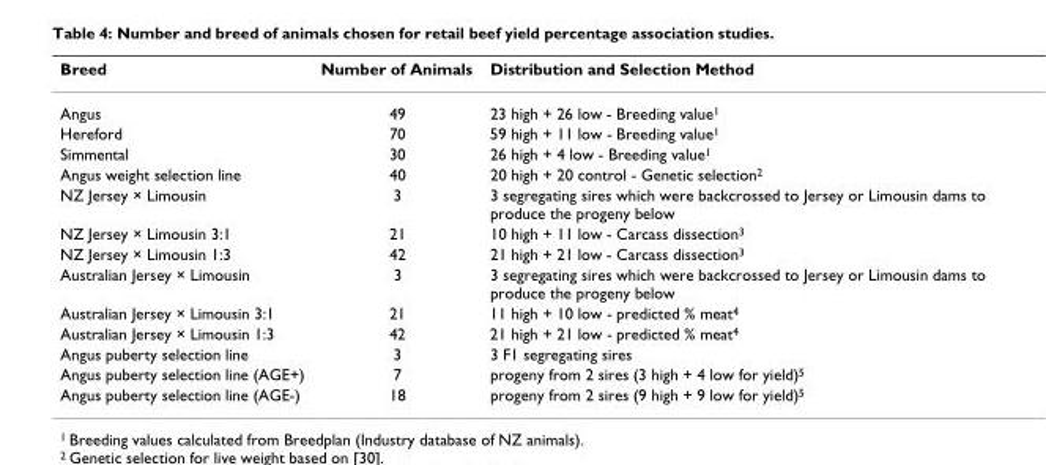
<table><thead><tr><td>Breed</td><td>Number of Animals</td><td>Distribution and Selection Method</td></tr></thead><tbody><tr><td>Angus</td><td>49</td><td>23 high + 26 low - Breeding value<sup>1</sup></td></tr><tr><td>Hereford</td><td>70</td><td>59 high + 11 low - Breeding value<sup>1</sup></td></tr><tr><td>Simmental</td><td>30</td><td>26 high + 4 low - Breeding value<sup>1</sup></td></tr><tr><td>Angus weight selection line</td><td>40</td><td>20 high + 20 control - Genetic selection<sup>2</sup></td></tr><tr><td>NZ Jersey × Limousin</td><td>3</td><td>3 segregating sires which were backcrossed to Jersey or Limousin dams to produce the progeny below</td></tr><tr><td>NZ Jersey × Limousin 3:1</td><td>21</td><td>10 high + 11 low - Carcass dissection<sup>3</sup></td></tr><tr><td>NZ Jersey × Limousin 1:3</td><td>42</td><td>21 high + 21 low - Carcass dissection<sup>3</sup></td></tr><tr><td>Australian Jersey × Limousin</td><td>3</td><td>3 segregating sires which were backcrossed to Jersey or Limousin dams to produce the progeny below</td></tr><tr><td>Australian Jersey × Limousin 3:1</td><td>21</td><td>11 high + 10 low - predicted % meat<sup>4</sup></td></tr><tr><td>Australian Jersey × Limousin 1:3</td><td>42</td><td>21 high + 21 low - predicted % meat<sup>4</sup></td></tr><tr><td>Angus puberty selection line</td><td>3</td><td>3 F1 segregating sires</td></tr><tr><td>Angus puberty selection line (AGE+)</td><td>7</td><td>progeny from 2 sires (3 high + 4 low for yield)<sup>5</sup></td></tr><tr><td>Angus puberty selection line (AGE-)</td><td>18</td><td>progeny from 2 sires (9 high + 9 low for yield)<sup>5</sup></td></tr></tbody></table>